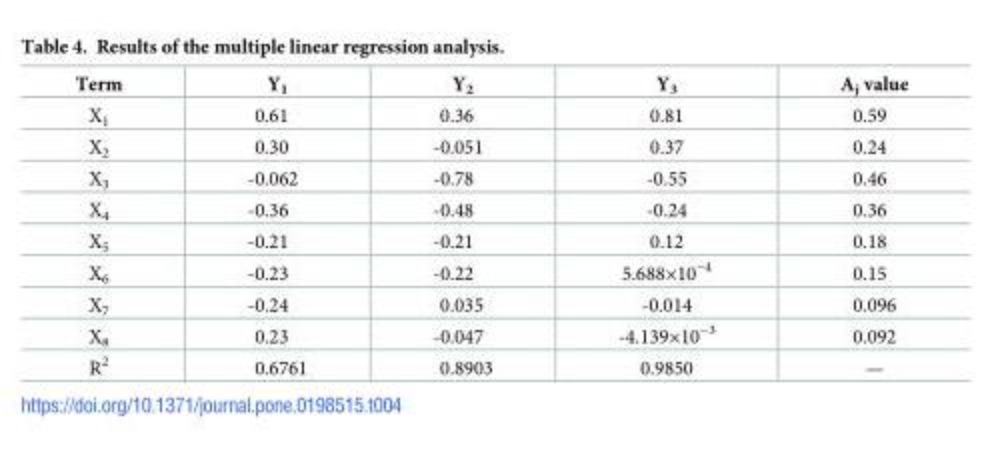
<table><thead><tr><td>Term</td><td>Y<sub>1</sub></td><td>Y<sub>2</sub></td><td>Y<sub>3</sub></td><td>A<sub>j</sub> value</td></tr></thead><tbody><tr><td>X<sub>1</sub></td><td>0.61</td><td>0.36</td><td>0.81</td><td>0.59</td></tr><tr><td>X<sub>2</sub></td><td>0.30</td><td>-0.051</td><td>0.37</td><td>0.24</td></tr><tr><td>X<sub>3</sub></td><td>-0.062</td><td>-0.78</td><td>-0.55</td><td>0.46</td></tr><tr><td>X<sub>4</sub></td><td>-0.36</td><td>-0.48</td><td>-0.24</td><td>0.36</td></tr><tr><td>X<sub>5</sub></td><td>-0.21</td><td>-0.21</td><td>0.12</td><td>0.18</td></tr><tr><td>X<sub>6</sub></td><td>-0.23</td><td>-0.22</td><td>5.688×10<sup>−4</sup></td><td>0.15</td></tr><tr><td>X<sub>7</sub></td><td>-0.24</td><td>0.035</td><td>-0.014</td><td>0.096</td></tr><tr><td>X<sub>8</sub></td><td>0.23</td><td>-0.047</td><td>-4.139×10<sup>−3</sup></td><td>0.092</td></tr><tr><td>R<sup>2</sup></td><td>0.6761</td><td>0.8903</td><td>0.9850</td><td>—</td></tr></tbody></table>